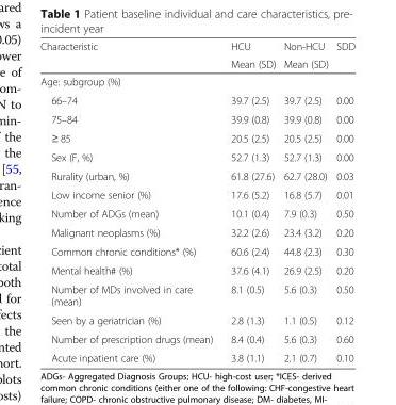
<table><thead><tr><td rowspan="2">Characteristic</td><td rowspan="2">HCU Mean (SD)</td><td rowspan="2">Non-HCU Mean (SD)</td><td rowspan="2">SDD</td></tr><tr></tr></thead><tbody><tr><td colspan="4">Age: subgroup (%)</td></tr><tr><td>66–74</td><td>39.7 (2.5)</td><td>39.7 (2.5)</td><td>0.00</td></tr><tr><td>75–84</td><td>39.9 (0.8)</td><td>39.9 (0.8)</td><td>0.00</td></tr><tr><td>≥ 85</td><td>20.5 (2.5)</td><td>20.5 (2.5)</td><td>0.00</td></tr><tr><td>Sex (F, %)</td><td>52.7 (1.3)</td><td>52.7 (1.3)</td><td>0.00</td></tr><tr><td>Rurality (urban, %)</td><td>61.8 (27.6)</td><td>62.7 (28.0)</td><td>0.03</td></tr><tr><td>Low income senior (%)</td><td>17.6 (5.2)</td><td>16.8 (5.7)</td><td>0.01</td></tr><tr><td>Number of ADGs (mean)</td><td>10.1 (0.4)</td><td>7.9 (0.3)</td><td>0.50</td></tr><tr><td>Malignant neoplasms (%)</td><td>32.2 (2.6)</td><td>23.4 (3.2)</td><td>0.20</td></tr><tr><td>Common chronic conditions* (%)</td><td>60.6 (2.4)</td><td>44.8 (2.3)</td><td>0.30</td></tr><tr><td>Mental health# (%)</td><td>37.6 (4.1)</td><td>26.9 (2.5)</td><td>0.20</td></tr><tr><td>Number of MDs involved in care (mean)</td><td>8.1 (0.5)</td><td>5.6 (0.3)</td><td>0.50</td></tr><tr><td>Seen by a geriatrician (%)</td><td>2.8 (1.3)</td><td>1.1 (0.5)</td><td>0.12</td></tr><tr><td>Number of prescription drugs (mean)</td><td>8.4 (0.4)</td><td>5.6 (0.3)</td><td>0.60</td></tr><tr><td>Acute inpatient care (%)</td><td>3.8 (1.1)</td><td>2.1 (0.7)</td><td>0.10</td></tr></tbody></table>